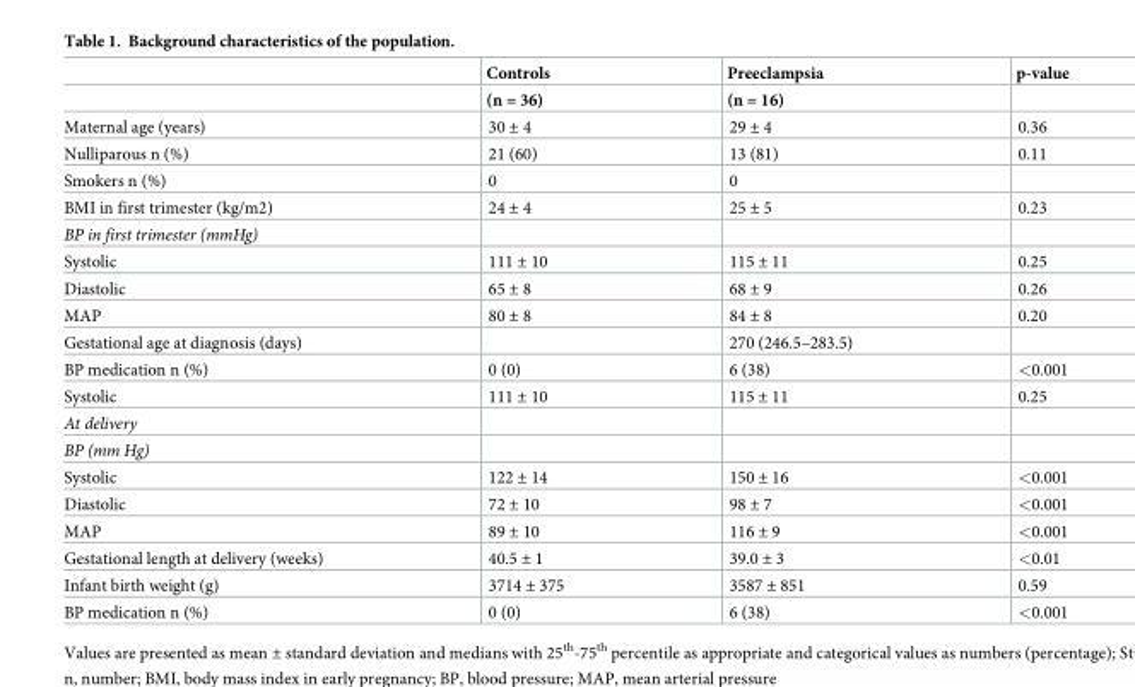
<table><thead><tr><td rowspan="2"></td><td rowspan="2">Controls (n = 36)</td><td rowspan="2">Preeclampsia (n = 16)</td><td rowspan="2">p-value</td></tr><tr></tr></thead><tbody><tr><td>Maternal age (years)</td><td>30 ± 4</td><td>29 ± 4</td><td>0.36</td></tr><tr><td>Nulliparous n (%)</td><td>21 (60)</td><td>13 (81)</td><td>0.11</td></tr><tr><td>Smokers n (%)</td><td>0</td><td>0</td><td></td></tr><tr><td>BMI in first trimester (kg/m2)</td><td>24 ± 4</td><td>25 ± 5</td><td>0.23</td></tr><tr><td colspan="4">BP in first trimester (mmHg)</td></tr><tr><td>Systolic</td><td>111 ± 10</td><td>115 ± 11</td><td>0.25</td></tr><tr><td>Diastolic</td><td>65 ± 8</td><td>68 ± 9</td><td>0.26</td></tr><tr><td>MAP</td><td>80 ± 8</td><td>84 ± 8</td><td>0.20</td></tr><tr><td>Gestational age at diagnosis (days)</td><td></td><td>270 (246.5–283.5)</td><td></td></tr><tr><td>BP medication n (%)</td><td>0 (0)</td><td>6 (38)</td><td>&lt;0.001</td></tr><tr><td>Systolic</td><td>111 ± 10</td><td>115 ± 11</td><td>0.25</td></tr><tr><td colspan="4">At delivery</td></tr><tr><td colspan="4">BP (mm Hg)</td></tr><tr><td>Systolic</td><td>122 ± 14</td><td>150 ± 16</td><td>&lt;0.001</td></tr><tr><td>Diastolic</td><td>72 ± 10</td><td>98 ± 7</td><td>&lt;0.001</td></tr><tr><td>MAP</td><td>89 ± 10</td><td>116 ± 9</td><td>&lt;0.001</td></tr><tr><td>Gestational length at delivery (weeks)</td><td>40.5 ± 1</td><td>39.0 ± 3</td><td>&lt;0.01</td></tr><tr><td>Infant birth weight (g)</td><td>3714 ± 375</td><td>3587 ± 851</td><td>0.59</td></tr><tr><td>BP medication n (%)</td><td>0 (0)</td><td>6 (38)</td><td>&lt;0.001</td></tr></tbody></table>